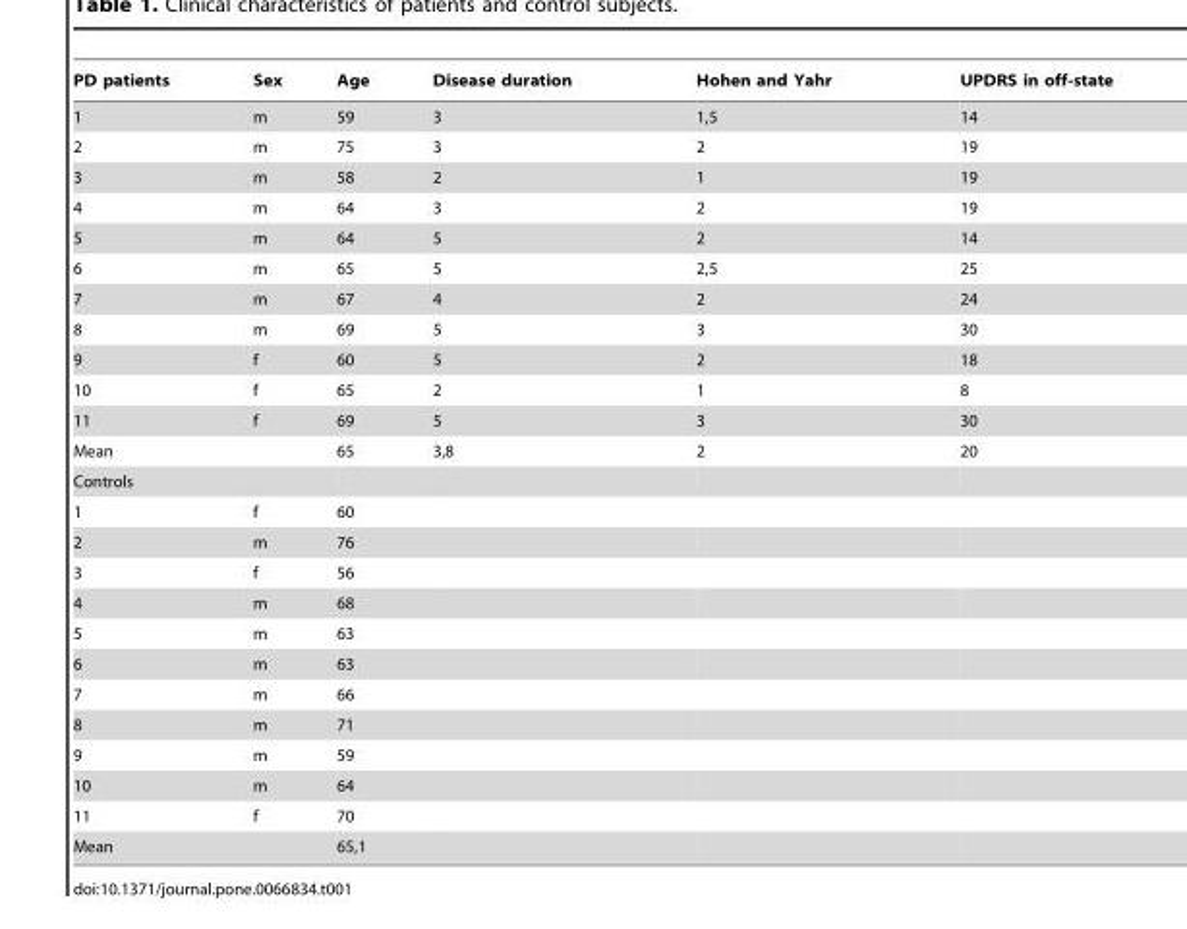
<table><thead><tr><td>PD patients</td><td>Sex</td><td>Age</td><td>Disease duration</td><td>Hohen and Yahr</td><td>UPDRS in off-state</td></tr></thead><tbody><tr><td>1</td><td>m</td><td>59</td><td>3</td><td>1,5</td><td>14</td></tr><tr><td>2</td><td>m</td><td>75</td><td>3</td><td>2</td><td>19</td></tr><tr><td>3</td><td>m</td><td>58</td><td>2</td><td>1</td><td>19</td></tr><tr><td>4</td><td>m</td><td>64</td><td>3</td><td>2</td><td>19</td></tr><tr><td>5</td><td>m</td><td>64</td><td>5</td><td>2</td><td>14</td></tr><tr><td>6</td><td>m</td><td>65</td><td>5</td><td>2,5</td><td>25</td></tr><tr><td>7</td><td>m</td><td>67</td><td>4</td><td>2</td><td>24</td></tr><tr><td>8</td><td>m</td><td>69</td><td>5</td><td>3</td><td>30</td></tr><tr><td>9</td><td>f</td><td>60</td><td>5</td><td>2</td><td>18</td></tr><tr><td>10</td><td>f</td><td>65</td><td>2</td><td>1</td><td>8</td></tr><tr><td>11</td><td>f</td><td>69</td><td>5</td><td>3</td><td>30</td></tr><tr><td colspan="2">Mean</td><td>65</td><td>3,8</td><td>2</td><td>20</td></tr><tr><td colspan="6">Controls</td></tr><tr><td>1</td><td>f</td><td>60</td><td></td><td></td><td></td></tr><tr><td>2</td><td>m</td><td>76</td><td></td><td></td><td></td></tr><tr><td>3</td><td>f</td><td>56</td><td></td><td></td><td></td></tr><tr><td>4</td><td>m</td><td>68</td><td></td><td></td><td></td></tr><tr><td>5</td><td>m</td><td>63</td><td></td><td></td><td></td></tr><tr><td>6</td><td>m</td><td>63</td><td></td><td></td><td></td></tr><tr><td>7</td><td>m</td><td>66</td><td></td><td></td><td></td></tr><tr><td>8</td><td>m</td><td>71</td><td></td><td></td><td></td></tr><tr><td>9</td><td>m</td><td>59</td><td></td><td></td><td></td></tr><tr><td>10</td><td>m</td><td>64</td><td></td><td></td><td></td></tr><tr><td>11</td><td>f</td><td>70</td><td></td><td></td><td></td></tr><tr><td colspan="2">Mean</td><td>65,1</td><td></td><td></td><td></td></tr></tbody></table>